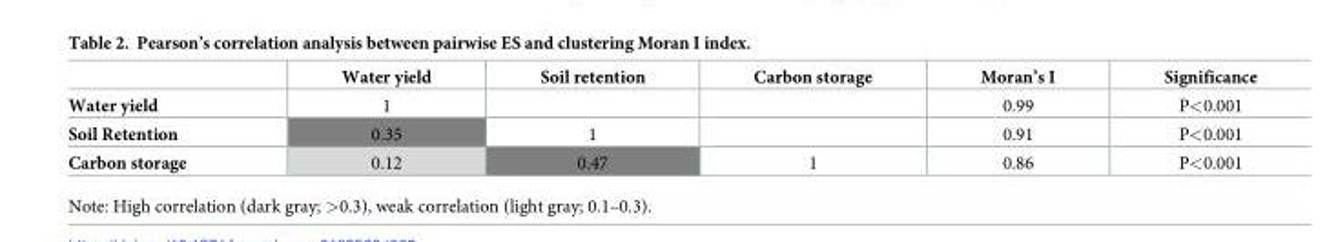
<table><thead><tr><td></td><td>Water yield</td><td>Soil retention</td><td>Carbon storage</td><td>Moran’s I</td><td>Significance</td></tr></thead><tbody><tr><td>Water yield</td><td>1</td><td></td><td></td><td>0.99</td><td>P&lt;0.001</td></tr><tr><td>Soil Retention</td><td>0.35</td><td>1</td><td></td><td>0.91</td><td>P&lt;0.001</td></tr><tr><td>Carbon storage</td><td>0.12</td><td>0.47</td><td>1</td><td>0.86</td><td>P&lt;0.001</td></tr></tbody></table>